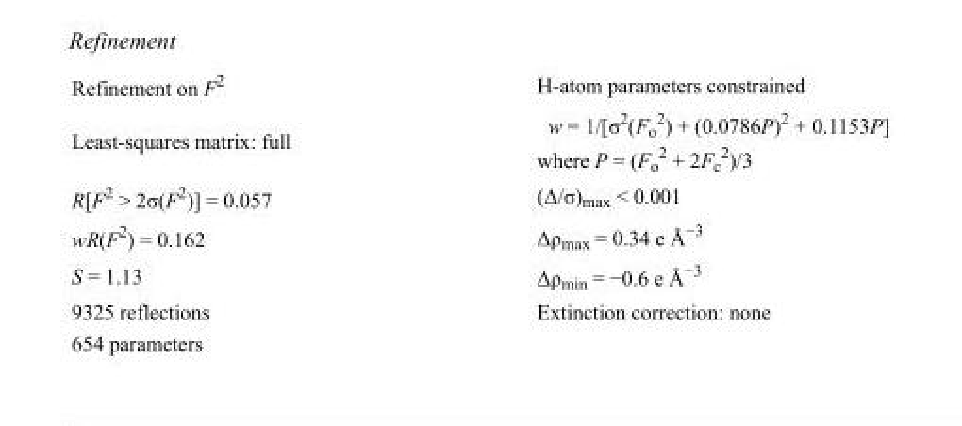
<table><tbody><tr><td>Refinement on F<sup>2</sup></td><td>H-atom parameters constrained</td></tr><tr><td>Least-squares matrix: full</td><td>w = 1/[σ<sup>2</sup>(F<sub>o</sub> <sup>2</sup>) + (0.0786P)<sup>2</sup> + 0.1153P] where P = (F<sub>o</sub> <sup>2</sup> + 2F<sub>c</sub> <sup>2</sup>)/3</td></tr><tr><td>R[F<sup>2</sup> &gt; 2σ(F<sup>2</sup>)] = 0.057</td><td>(Δ/σ)<sub>max</sub> &lt; 0.001</td></tr><tr><td>wR(F<sup>2</sup>) = 0.162</td><td>Δρ<sub>max</sub> = 0.34 e Å<sup>−3</sup></td></tr><tr><td>S = 1.13</td><td>Δρ<sub>min</sub> = −0.6 e Å<sup>−3</sup></td></tr><tr><td>9325 reflections</td><td>Extinction correction: none</td></tr><tr><td>654 parameters</td><td></td></tr></tbody></table>